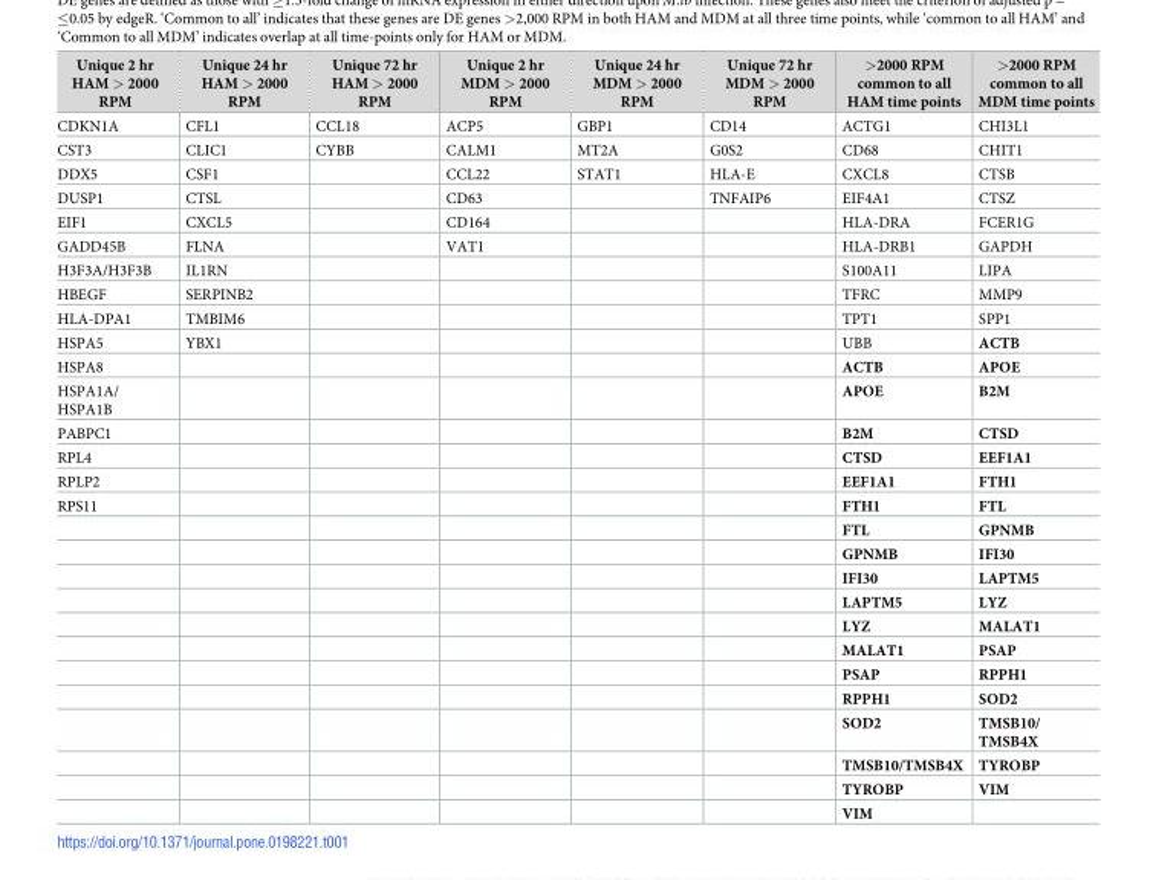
<table><thead><tr><td>Unique 2 hr HAM &gt; 2000 RPM</td><td>Unique 24 hr HAM &gt; 2000 RPM</td><td>Unique 72 hr HAM &gt; 2000 RPM</td><td>Unique 2 hr MDM &gt; 2000 RPM</td><td>Unique 24 hr MDM &gt; 2000 RPM</td><td>Unique 72 hr MDM &gt; 2000 RPM</td><td>&gt;2000 RPM common to all HAM time points</td><td>&gt;2000 RPM common to all MDM time points</td></tr></thead><tbody><tr><td>CDKN1A</td><td>CFL1</td><td>CCL18</td><td>ACP5</td><td>GBP1</td><td>CD14</td><td>ACTG1</td><td>CHI3L1</td></tr><tr><td>CST3</td><td>CLIC1</td><td>CYBB</td><td>CALM1</td><td>MT2A</td><td>G0S2</td><td>CD68</td><td>CHIT1</td></tr><tr><td>DDX5</td><td>CSF1</td><td></td><td>CCL22</td><td>STAT1</td><td>HLA-E</td><td>CXCL8</td><td>CTSB</td></tr><tr><td>DUSP1</td><td>CTSL</td><td></td><td>CD63</td><td></td><td>TNFAIP6</td><td>EIF4A1</td><td>CTSZ</td></tr><tr><td>EIF1</td><td>CXCL5</td><td></td><td>CD164</td><td></td><td></td><td>HLA-DRA</td><td>FCER1G</td></tr><tr><td>GADD45B</td><td>FLNA</td><td></td><td>VAT1</td><td></td><td></td><td>HLA-DRB1</td><td>GAPDH</td></tr><tr><td>H3F3A/H3F3B</td><td>IL1RN</td><td></td><td></td><td></td><td></td><td>S100A11</td><td>LIPA</td></tr><tr><td>HBEGF</td><td>SERPINB2</td><td></td><td></td><td></td><td></td><td>TFRC</td><td>MMP9</td></tr><tr><td>HLA-DPA1</td><td>TMBIM6</td><td></td><td></td><td></td><td></td><td>TPT1</td><td>SPP1</td></tr><tr><td>HSPA5</td><td>YBX1</td><td></td><td></td><td></td><td></td><td>UBB</td><td>ACTB</td></tr><tr><td>HSPA8</td><td></td><td></td><td></td><td></td><td></td><td>ACTB</td><td>APOE</td></tr><tr><td>HSPA1A/ HSPA1B</td><td></td><td></td><td></td><td></td><td></td><td>APOE</td><td>B2M</td></tr><tr><td>PABPC1</td><td></td><td></td><td></td><td></td><td></td><td>B2M</td><td>CTSD</td></tr><tr><td>RPL4</td><td></td><td></td><td></td><td></td><td></td><td>CTSD</td><td>EEF1A1</td></tr><tr><td>RPLP2</td><td></td><td></td><td></td><td></td><td></td><td>EEF1A1</td><td>FTH1</td></tr><tr><td rowspan="13">RPS11</td><td></td><td></td><td></td><td></td><td></td><td>FTH1</td><td>FTL</td></tr><tr><td></td><td></td><td></td><td></td><td></td><td>FTL</td><td>GPNMB</td></tr><tr><td></td><td></td><td></td><td></td><td></td><td>GPNMB</td><td>IFI30</td></tr><tr><td></td><td></td><td></td><td></td><td></td><td>IFI30</td><td>LAPTM5</td></tr><tr><td></td><td></td><td></td><td></td><td></td><td>LAPTM5</td><td>LYZ</td></tr><tr><td></td><td></td><td></td><td></td><td></td><td>LYZ</td><td>MALAT1</td></tr><tr><td></td><td></td><td></td><td></td><td></td><td>MALAT1</td><td>PSAP</td></tr><tr><td></td><td></td><td></td><td></td><td></td><td>PSAP</td><td>RPPH1</td></tr><tr><td></td><td></td><td></td><td></td><td></td><td>RPPH1</td><td>SOD2</td></tr><tr><td></td><td></td><td></td><td></td><td></td><td>SOD2</td><td>TMSB10/ TMSB4X</td></tr><tr><td></td><td></td><td></td><td></td><td></td><td>TMSB10/TMSB4X</td><td>TYROBP</td></tr><tr><td></td><td></td><td></td><td></td><td></td><td>TYROBP</td><td>VIM</td></tr><tr><td></td><td></td><td></td><td></td><td></td><td>VIM</td><td></td></tr></tbody></table>